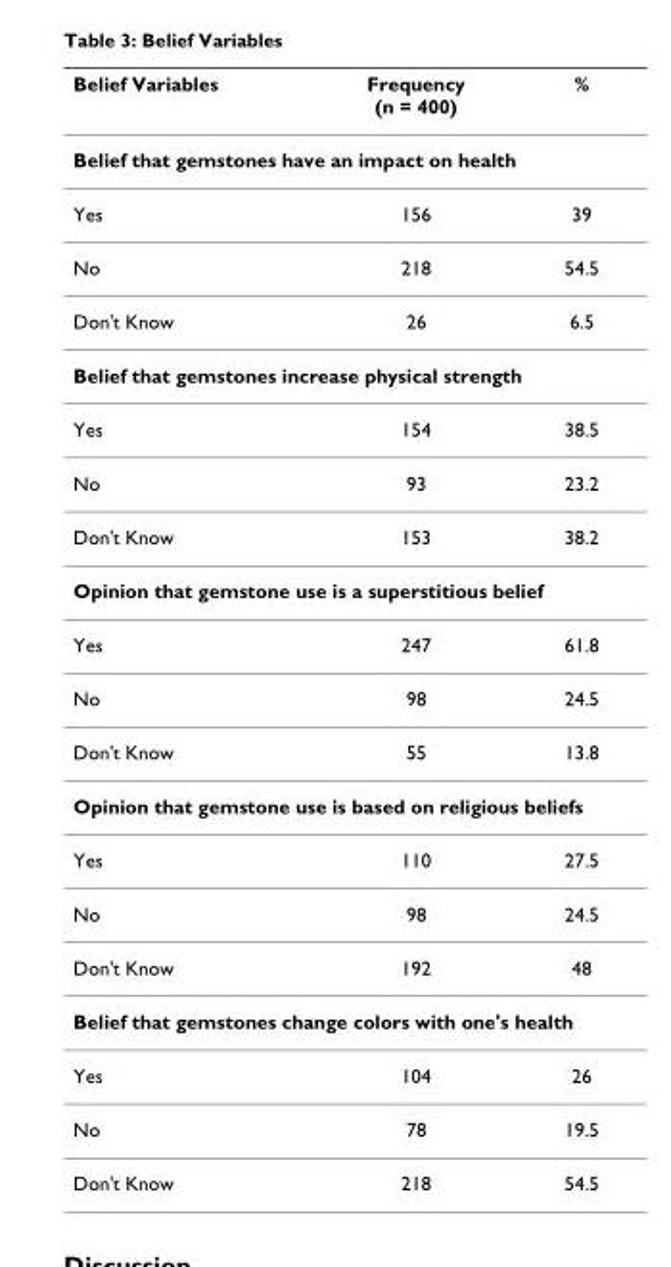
<table><thead><tr><td>Belief Variables</td><td>Frequency (n = 400)</td><td>%</td></tr></thead><tbody><tr><td colspan="3">Belief that gemstones have an impact on health</td></tr><tr><td>Yes</td><td>156</td><td>39</td></tr><tr><td>No</td><td>218</td><td>54.5</td></tr><tr><td>Don&#x27;t Know</td><td>26</td><td>6.5</td></tr><tr><td colspan="3">Belief that gemstones increase physical strength</td></tr><tr><td>Yes</td><td>154</td><td>38.5</td></tr><tr><td>No</td><td>93</td><td>23.2</td></tr><tr><td>Don&#x27;t Know</td><td>153</td><td>38.2</td></tr><tr><td colspan="3">Opinion that gemstone use is a superstitious belief</td></tr><tr><td>Yes</td><td>247</td><td>61.8</td></tr><tr><td>No</td><td>98</td><td>24.5</td></tr><tr><td>Don&#x27;t Know</td><td>55</td><td>13.8</td></tr><tr><td colspan="3">Opinion that gemstone use is based on religious beliefs</td></tr><tr><td>Yes</td><td>110</td><td>27.5</td></tr><tr><td>No</td><td>98</td><td>24.5</td></tr><tr><td>Don&#x27;t Know</td><td>192</td><td>48</td></tr><tr><td colspan="3">Belief that gemstones change colors with one&#x27;s health</td></tr><tr><td>Yes</td><td>104</td><td>26</td></tr><tr><td>No</td><td>78</td><td>19.5</td></tr><tr><td>Don&#x27;t Know</td><td>218</td><td>54.5</td></tr></tbody></table>